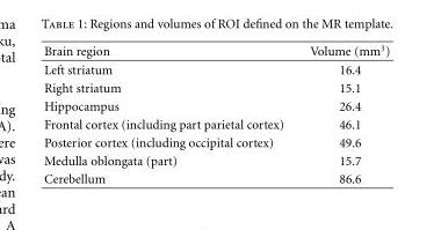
<table><thead><tr><td>Brain region</td><td>Volume (mm<sup>3</sup>)</td></tr></thead><tbody><tr><td>Left striatum</td><td>16.4</td></tr><tr><td>Right striatum</td><td>15.1</td></tr><tr><td>Hippocampus</td><td>26.4</td></tr><tr><td>Frontal cortex (including part parietal cortex)</td><td>46.1</td></tr><tr><td>Posterior cortex (including occipital cortex)</td><td>49.6</td></tr><tr><td>Medulla oblongata (part)</td><td>15.7</td></tr><tr><td>Cerebellum</td><td>86.6</td></tr></tbody></table>